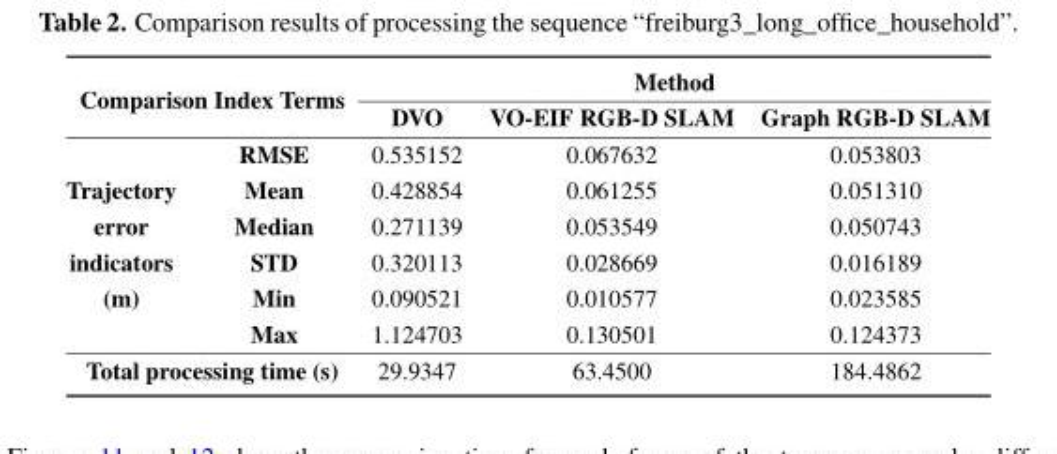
<table><thead><tr><td rowspan="2" colspan="2">Comparison Index Terms</td><td colspan="3">Method</td></tr><tr><td rowspan="2">DVO 0.535152</td><td rowspan="2">VO-EIF RGB-D SLAM 0.067632</td><td rowspan="2">Graph RGB-D SLAM 0.053803</td></tr><tr><td></td><td>RMSE</td></tr></thead><tbody><tr><td>Trajectory</td><td>Mean</td><td>0.428854</td><td>0.061255</td><td>0.051310</td></tr><tr><td>error</td><td>Median</td><td>0.271139</td><td>0.053549</td><td>0.050743</td></tr><tr><td>indicators</td><td>STD</td><td>0.320113</td><td>0.028669</td><td>0.016189</td></tr><tr><td rowspan="2">(m)</td><td>Min</td><td>0.090521</td><td>0.010577</td><td>0.023585</td></tr><tr><td>Max</td><td>1.124703</td><td>0.130501</td><td>0.124373</td></tr><tr><td colspan="2">Total processing time (s)</td><td>29.9347</td><td>63.4500</td><td>184.4862</td></tr></tbody></table>